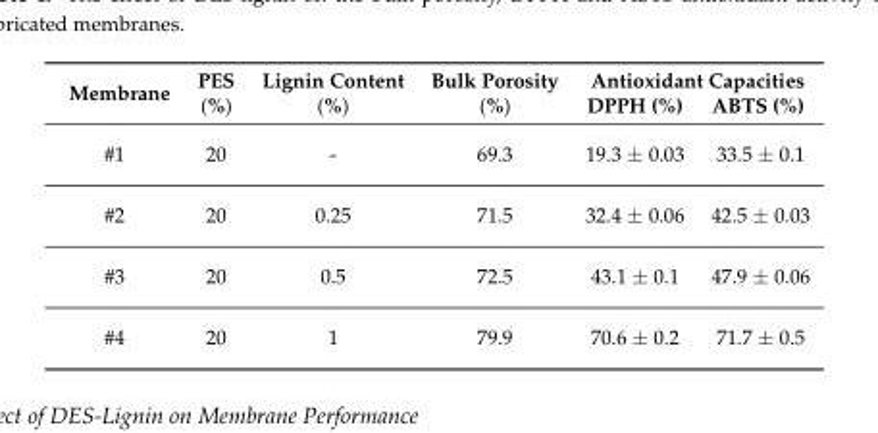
<table><thead><tr><td>Membrane</td><td>PES (%)</td><td>Lignin Content (%)</td><td>Bulk Porosity (%)</td><td>Antioxidant DPPH (%)</td><td>Capacities ABTS (%)</td></tr></thead><tbody><tr><td>#1</td><td>20</td><td>-</td><td>69.3</td><td>19.3 ± 0.03</td><td>33.5 ± 0.1</td></tr><tr><td>#2</td><td>20</td><td>0.25</td><td>71.5</td><td>32.4 ± 0.06</td><td>42.5 ± 0.03</td></tr><tr><td>#3</td><td>20</td><td>0.5</td><td>72.5</td><td>43.1 ± 0.1</td><td>47.9 ± 0.06</td></tr><tr><td>#4</td><td>20</td><td>1</td><td>79.9</td><td>70.6 ± 0.2</td><td>71.7 ± 0.5</td></tr></tbody></table>